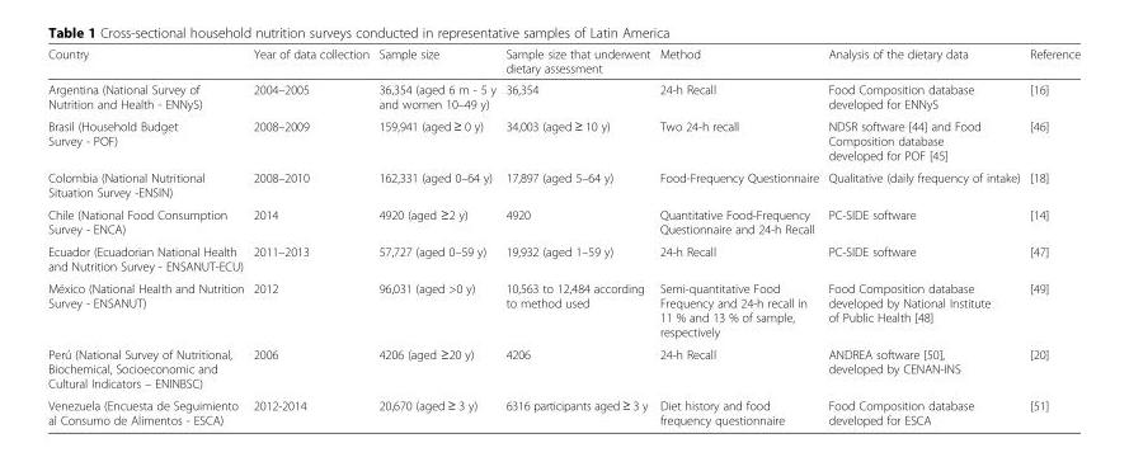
<table><thead><tr><td>Country</td><td>Year of data collection</td><td>Sample size</td><td>Sample size that underwent dietary assessment</td><td>Method</td><td>Analysis of the dietary data</td><td>Reference</td></tr></thead><tbody><tr><td>Argentina (National Survey of Nutrition and Health - ENNyS)</td><td>2004–2005</td><td>36,354 (aged 6 m - 5 y and women 10–49 y)</td><td>36,354</td><td>24-h Recall</td><td>Food Composition database developed for ENNyS</td><td>[16]</td></tr><tr><td>Brasil (Household Budget Survey - POF)</td><td>2008–2009</td><td>159,941 (aged ≥ 0 y)</td><td>34,003 (aged ≥ 10 y)</td><td>Two 24-h recall</td><td>NDSR software [44] and Food Composition database developed for POF [45]</td><td>[46]</td></tr><tr><td>Colombia (National Nutritional Situation Survey -ENSIN)</td><td>2008–2010</td><td>162,331 (aged 0–64 y)</td><td>17,897 (aged 5–64 y)</td><td>Food-Frequency Questionnaire</td><td>Qualitative (daily frequency of intake)</td><td>[18]</td></tr><tr><td>Chile (National Food Consumption Survey - ENCA)</td><td>2014</td><td>4920 (aged ≥2 y)</td><td>4920</td><td>Quantitative Food-Frequency Questionnaire and 24-h Recall</td><td>PC-SIDE software</td><td>[14]</td></tr><tr><td>Ecuador (Ecuadorian National Health and Nutrition Survey - ENSANUT-ECU)</td><td>2011–2013</td><td>57,727 (aged 0–59 y)</td><td>19,932 (aged 1–59 y)</td><td>24-h Recall</td><td>PC-SIDE software</td><td>[47]</td></tr><tr><td>México (National Health and Nutrition Survey - ENSANUT)</td><td>2012</td><td>96,031 (aged &gt;0 y)</td><td>10,563 to 12,484 according to method used</td><td>Semi-quantitative Food Frequency and 24-h recall in 11 % and 13 % of sample, respectively</td><td>Food Composition database developed by National Institute of Public Health [48]</td><td>[49]</td></tr><tr><td>Perú (National Survey of Nutritional, Biochemical, Socioeconomic and Cultural Indicators – ENINBSC)</td><td>2006</td><td>4206 (aged ≥20 y)</td><td>4206</td><td>24-h Recall</td><td>ANDREA software [50], developed by CENAN-INS</td><td>[20]</td></tr><tr><td>Venezuela (Encuesta de Seguimiento al Consumo de Alimentos - ESCA)</td><td>2012-2014</td><td>20,670 (aged ≥ 3 y)</td><td>6316 participants aged ≥ 3 y</td><td>Diet history and food frequency questionnaire</td><td>Food Composition database developed for ESCA</td><td>[51]</td></tr></tbody></table>